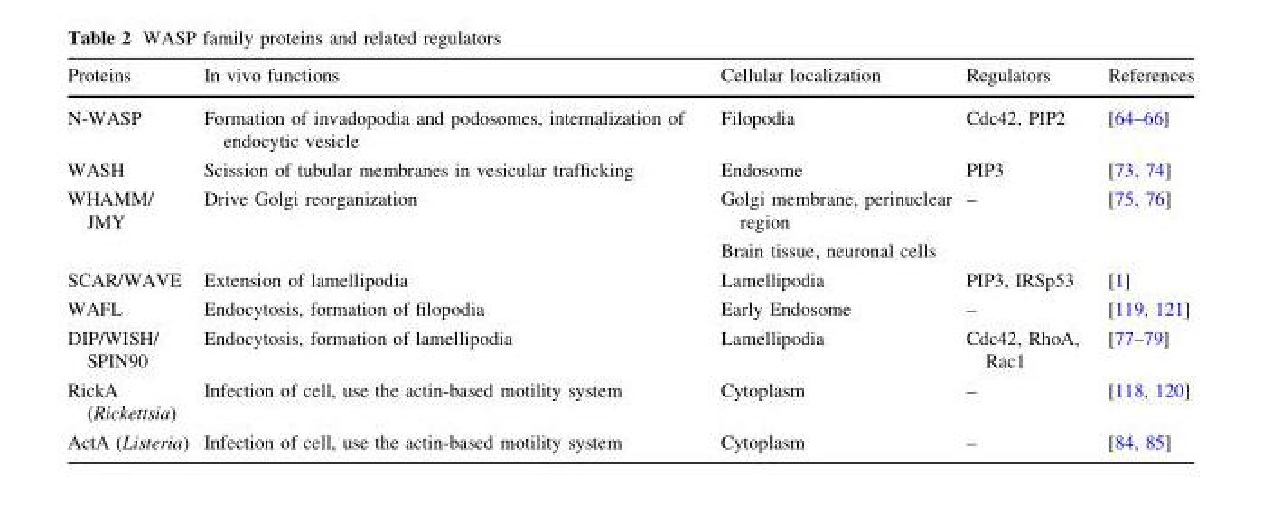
<table><thead><tr><td>Proteins</td><td>In vivo functions</td><td>Cellular localization</td><td>Regulators</td><td>References</td></tr></thead><tbody><tr><td>N-WASP</td><td>Formation of invadopodia and podosomes, internalization of endocytic vesicle</td><td>Filopodia</td><td>Cdc42, PIP2</td><td>[64–66]</td></tr><tr><td>WASH</td><td>Scission of tubular membranes in vesicular trafficking</td><td>Endosome</td><td>PIP3</td><td>[73, 74]</td></tr><tr><td>WHAMM/ JMY</td><td>Drive Golgi reorganization</td><td>Golgi membrane, perinuclear region Brain tissue, neuronal cells</td><td>–</td><td>[75, 76]</td></tr><tr><td>SCAR/WAVE</td><td>Extension of lamellipodia</td><td>Lamellipodia</td><td>PIP3, IRSp53</td><td>[1]</td></tr><tr><td>WAFL</td><td>Endocytosis, formation of filopodia</td><td>Early Endosome</td><td>–</td><td>[119, 121]</td></tr><tr><td>DIP/WISH/ SPIN90</td><td>Endocytosis, formation of lamellipodia</td><td>Lamellipodia</td><td>Cdc42, RhoA, Rac1</td><td>[77–79]</td></tr><tr><td>RickA (Rickettsia)</td><td>Infection of cell, use the actin-based motility system</td><td>Cytoplasm</td><td>–</td><td>[118, 120]</td></tr><tr><td>ActA (Listeria)</td><td>Infection of cell, use the actin-based motility system</td><td>Cytoplasm</td><td>–</td><td>[84, 85]</td></tr></tbody></table>